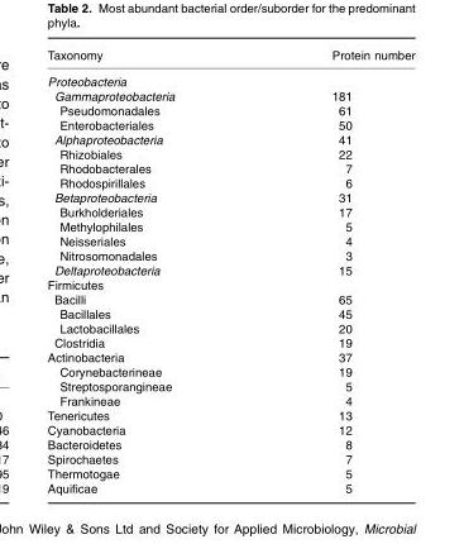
<table><thead><tr><td>Taxonomy</td><td>Protein number</td></tr></thead><tbody><tr><td colspan="2">Proteobacteria</td></tr><tr><td>Gammaproteobacteria</td><td>181</td></tr><tr><td>Pseudomonadales</td><td>61</td></tr><tr><td>Enterobacteriales</td><td>50</td></tr><tr><td>Alphaproteobacteria</td><td>41</td></tr><tr><td>Rhizobiales</td><td>22</td></tr><tr><td>Rhodobacterales</td><td>7</td></tr><tr><td>Rhodospirillales</td><td>6</td></tr><tr><td>Betaproteobacteria</td><td>31</td></tr><tr><td>Burkholderiales</td><td>17</td></tr><tr><td>Methylophilales</td><td>5</td></tr><tr><td>Neisseriales</td><td>4</td></tr><tr><td>Nitrosomonadales</td><td>3</td></tr><tr><td>Deltaproteobacteria</td><td>15</td></tr><tr><td colspan="2">Firmicutes</td></tr><tr><td>Bacilli</td><td>65</td></tr><tr><td>Bacillales</td><td>45</td></tr><tr><td>Lactobacillales</td><td>20</td></tr><tr><td>Clostridia</td><td>19</td></tr><tr><td>Actinobacteria</td><td>37</td></tr><tr><td>Corynebacterineae</td><td>19</td></tr><tr><td>Streptosporangineae</td><td>5</td></tr><tr><td>Frankineae</td><td>4</td></tr><tr><td>Tenericutes</td><td>13</td></tr><tr><td>Cyanobacteria</td><td>12</td></tr><tr><td>Bacteroidetes</td><td>8</td></tr><tr><td>Spirochaetes</td><td>7</td></tr><tr><td>Thermotogae</td><td>5</td></tr><tr><td>Aquificae</td><td>5</td></tr></tbody></table>